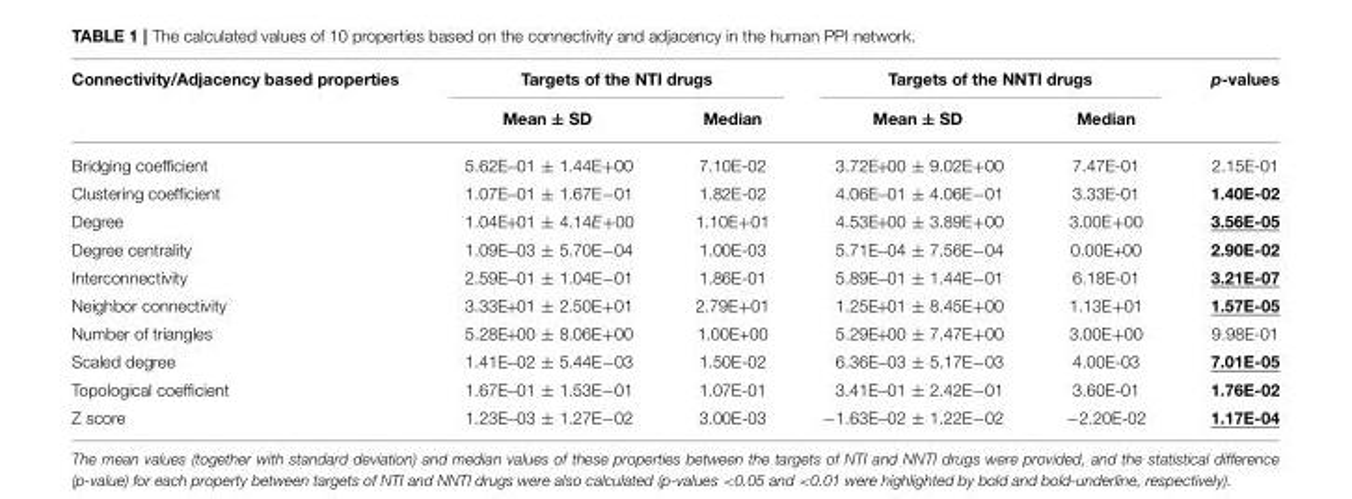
<table><thead><tr><td rowspan="2">Connectivity/Adjacency based properties</td><td colspan="2">Targets of the NTI drugs</td><td colspan="2">Targets of the NNTI drugs</td><td rowspan="2">p-values</td></tr><tr><td>Mean ± SD</td><td>Median</td><td>Mean ± SD</td><td>Median</td></tr></thead><tbody><tr><td>Bridging coefficient</td><td>5.62E−01 ± 1.44E+00</td><td>7.10E-02</td><td>3.72E+00 ± 9.02E+00</td><td>7.47E-01</td><td>2.15E-01</td></tr><tr><td>Clustering coefficient</td><td>1.07E−01 ± 1.67E−01</td><td>1.82E-02</td><td>4.06E−01 ± 4.06E−01</td><td>3.33E-01</td><td>1.40E-02</td></tr><tr><td>Degree</td><td>1.04E+01 ± 4.14E+00</td><td>1.10E+01</td><td>4.53E+00 ± 3.89E+00</td><td>3.00E+00</td><td>3.56E-05</td></tr><tr><td>Degree centrality</td><td>1.09E−03 ± 5.70E−04</td><td>1.00E-03</td><td>5.71E−04 ± 7.56E−04</td><td>0.00E+00</td><td>2.90E-02</td></tr><tr><td>Interconnectivity</td><td>2.59E−01 ± 1.04E−01</td><td>1.86E-01</td><td>5.89E−01 ± 1.44E−01</td><td>6.18E-01</td><td>3.21E-07</td></tr><tr><td>Neighbor connectivity</td><td>3.33E+01 ± 2.50E+01</td><td>2.79E+01</td><td>1.25E+01 ± 8.45E+00</td><td>1.13E+01</td><td>1.57E-05</td></tr><tr><td>Number of triangles</td><td>5.28E+00 ± 8.06E+00</td><td>1.00E+00</td><td>5.29E+00 ± 7.47E+00</td><td>3.00E+00</td><td>9.98E-01</td></tr><tr><td>Scaled degree</td><td>1.41E−02 ± 5.44E−03</td><td>1.50E-02</td><td>6.36E−03 ± 5.17E−03</td><td>4.00E-03</td><td>7.01E-05</td></tr><tr><td>Topological coefficient</td><td>1.67E−01 ± 1.53E−01</td><td>1.07E-01</td><td>3.41E−01 ± 2.42E−01</td><td>3.60E-01</td><td>1.76E-02</td></tr><tr><td>Z score</td><td>1.23E−03 ± 1.27E−02</td><td>3.00E-03</td><td>−1.63E−02 ± 1.22E−02</td><td>−2.20E-02</td><td>1.17E-04</td></tr></tbody></table>